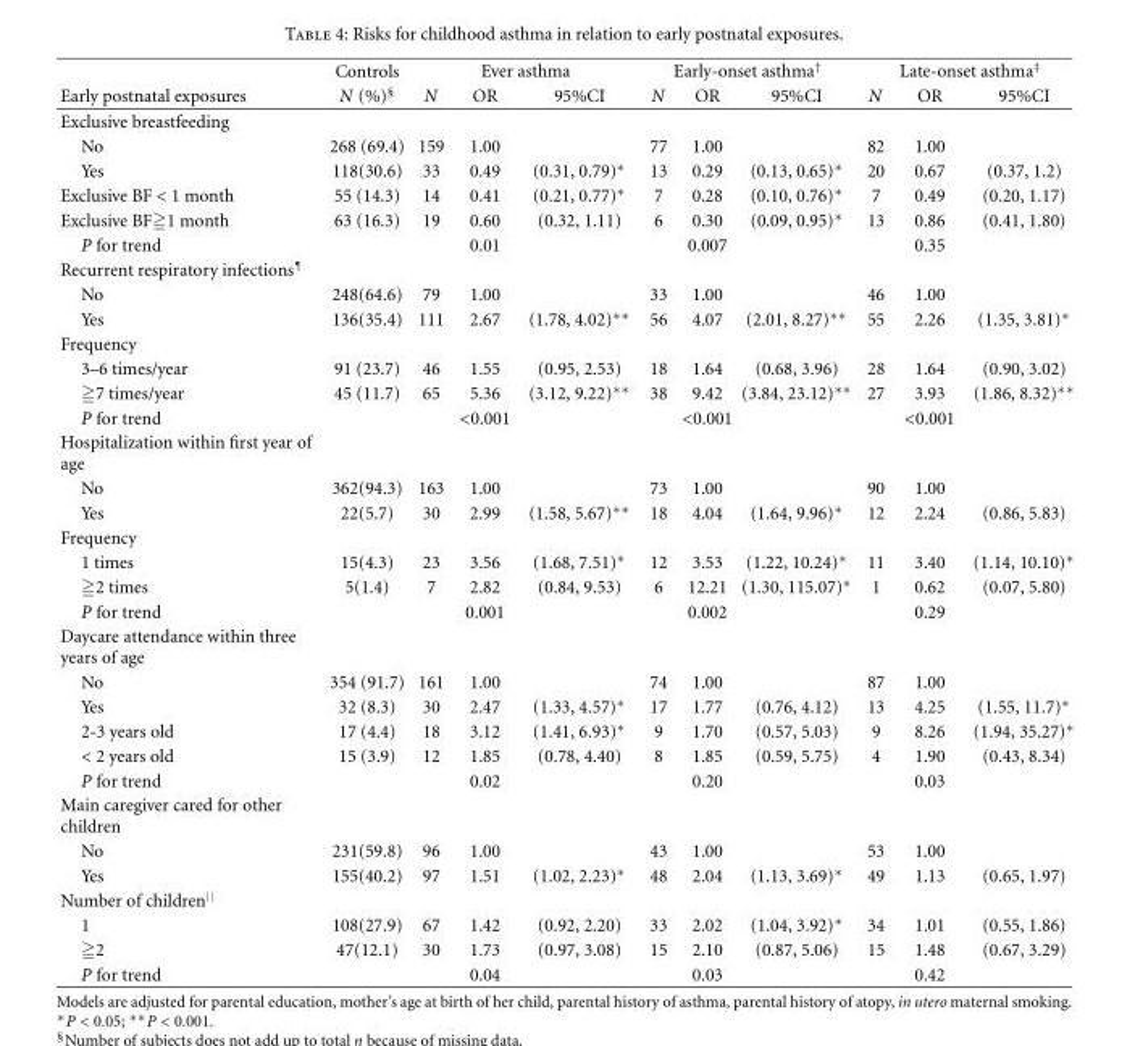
<table><thead><tr><td rowspan="2">Early postnatal exposures</td><td rowspan="2">Controls N (%)<sup>§</sup></td><td colspan="3">Ever asthma</td><td colspan="3">Early-onset asthma<sup>†</sup></td><td colspan="3">Late-onset asthma<sup>‡</sup></td></tr><tr><td>N</td><td>OR</td><td>95%CI</td><td>N</td><td>OR</td><td>95%CI</td><td>N</td><td>OR</td><td>95%CI</td></tr></thead><tbody><tr><td colspan="11">Exclusive breastfeeding</td></tr><tr><td>No</td><td>268 (69.4)</td><td>159</td><td>1.00</td><td></td><td>77</td><td>1.00</td><td></td><td>82</td><td>1.00</td><td></td></tr><tr><td>Yes</td><td>118(30.6)</td><td>33</td><td>0.49</td><td>(0.31, 0.79)∗</td><td>13</td><td>0.29</td><td>(0.13, 0.65)∗</td><td>20</td><td>0.67</td><td>(0.37, 1.2)</td></tr><tr><td>Exclusive BF &lt; 1 month</td><td>55 (14.3)</td><td>14</td><td>0.41</td><td>(0.21, 0.77)∗</td><td>7</td><td>0.28</td><td>(0.10, 0.76)∗</td><td>7</td><td>0.49</td><td>(0.20, 1.17)</td></tr><tr><td>Exclusive BF≧1 month</td><td>63 (16.3)</td><td>19</td><td>0.60</td><td>(0.32, 1.11)</td><td>6</td><td>0.30</td><td>(0.09, 0.95)∗</td><td>13</td><td>0.86</td><td>(0.41, 1.80)</td></tr><tr><td>P for trend</td><td></td><td></td><td>0.01</td><td></td><td></td><td>0.007</td><td></td><td></td><td>0.35</td><td></td></tr><tr><td colspan="11">Recurrent respiratory infections<sup>¶</sup></td></tr><tr><td>No</td><td>248(64.6)</td><td>79</td><td>1.00</td><td></td><td>33</td><td>1.00</td><td></td><td>46</td><td>1.00</td><td></td></tr><tr><td>Yes</td><td>136(35.4)</td><td>111</td><td>2.67</td><td>(1.78, 4.02)∗∗</td><td>56</td><td>4.07</td><td>(2.01, 8.27)∗∗</td><td>55</td><td>2.26</td><td>(1.35, 3.81)∗</td></tr><tr><td colspan="11">Frequency</td></tr><tr><td>3–6 times/year</td><td>91 (23.7)</td><td>46</td><td>1.55</td><td>(0.95, 2.53)</td><td>18</td><td>1.64</td><td>(0.68, 3.96)</td><td>28</td><td>1.64</td><td>(0.90, 3.02)</td></tr><tr><td>≧7 times/year</td><td>45 (11.7)</td><td>65</td><td>5.36</td><td>(3.12, 9.22)∗∗</td><td>38</td><td>9.42</td><td>(3.84, 23.12)∗∗</td><td>27</td><td>3.93</td><td>(1.86, 8.32)∗∗</td></tr><tr><td>P for trend</td><td></td><td></td><td>&lt;0.001</td><td></td><td></td><td>&lt;0.001</td><td></td><td></td><td>&lt;0.001</td><td></td></tr><tr><td colspan="11">Hospitalization within first year of age</td></tr><tr><td>No</td><td>362(94.3)</td><td>163</td><td>1.00</td><td></td><td>73</td><td>1.00</td><td></td><td>90</td><td>1.00</td><td></td></tr><tr><td>Yes</td><td>22(5.7)</td><td>30</td><td>2.99</td><td>(1.58, 5.67)∗∗</td><td>18</td><td>4.04</td><td>(1.64, 9.96)∗</td><td>12</td><td>2.24</td><td>(0.86, 5.83)</td></tr><tr><td colspan="11">Frequency</td></tr><tr><td>1 times</td><td>15(4.3)</td><td>23</td><td>3.56</td><td>(1.68, 7.51)∗</td><td>12</td><td>3.53</td><td>(1.22, 10.24)∗</td><td>11</td><td>3.40</td><td>(1.14, 10.10)∗</td></tr><tr><td>≧2 times</td><td>5(1.4)</td><td>7</td><td>2.82</td><td>(0.84, 9.53)</td><td>6</td><td>12.21</td><td>(1.30, 115.07)∗</td><td>1</td><td>0.62</td><td>(0.07, 5.80)</td></tr><tr><td>P for trend</td><td></td><td></td><td>0.001</td><td></td><td></td><td>0.002</td><td></td><td></td><td>0.29</td><td></td></tr><tr><td colspan="11">Daycare attendance within three years of age</td></tr><tr><td>No</td><td>354 (91.7)</td><td>161</td><td>1.00</td><td></td><td>74</td><td>1.00</td><td></td><td>87</td><td>1.00</td><td></td></tr><tr><td>Yes</td><td>32 (8.3)</td><td>30</td><td>2.47</td><td>(1.33, 4.57)∗</td><td>17</td><td>1.77</td><td>(0.76, 4.12)</td><td>13</td><td>4.25</td><td>(1.55, 11.7)∗</td></tr><tr><td>2-3 years old</td><td>17 (4.4)</td><td>18</td><td>3.12</td><td>(1.41, 6.93)∗</td><td>9</td><td>1.70</td><td>(0.57, 5.03)</td><td>9</td><td>8.26</td><td>(1.94, 35.27)∗</td></tr><tr><td>&lt; 2 years old</td><td>15 (3.9)</td><td>12</td><td>1.85</td><td>(0.78, 4.40)</td><td>8</td><td>1.85</td><td>(0.59, 5.75)</td><td>4</td><td>1.90</td><td>(0.43, 8.34)</td></tr><tr><td>P for trend</td><td></td><td></td><td>0.02</td><td></td><td></td><td>0.20</td><td></td><td></td><td>0.03</td><td></td></tr><tr><td colspan="11">Main caregiver cared for other children</td></tr><tr><td>No</td><td>231(59.8)</td><td>96</td><td>1.00</td><td></td><td>43</td><td>1.00</td><td></td><td>53</td><td>1.00</td><td></td></tr><tr><td>Yes</td><td>155(40.2)</td><td>97</td><td>1.51</td><td>(1.02, 2.23)∗</td><td>48</td><td>2.04</td><td>(1.13, 3.69)∗</td><td>49</td><td>1.13</td><td>(0.65, 1.97)</td></tr><tr><td colspan="11">Number of children<sup>||</sup></td></tr><tr><td>1</td><td>108(27.9)</td><td>67</td><td>1.42</td><td>(0.92, 2.20)</td><td>33</td><td>2.02</td><td>(1.04, 3.92)∗</td><td>34</td><td>1.01</td><td>(0.55, 1.86)</td></tr><tr><td>≧2</td><td>47(12.1)</td><td>30</td><td>1.73</td><td>(0.97, 3.08)</td><td>15</td><td>2.10</td><td>(0.87, 5.06)</td><td>15</td><td>1.48</td><td>(0.67, 3.29)</td></tr><tr><td>P for trend</td><td></td><td></td><td>0.04</td><td></td><td></td><td>0.03</td><td></td><td></td><td>0.42</td><td></td></tr></tbody></table>